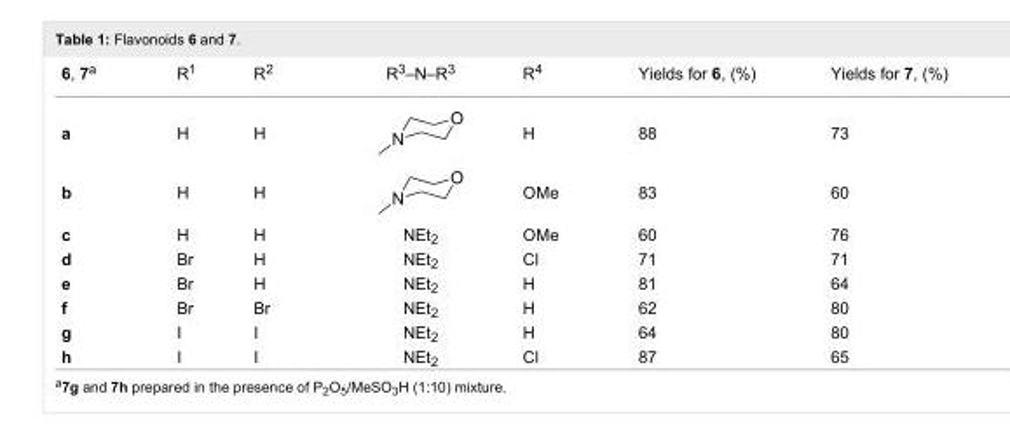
<table><tbody><tr><td>6, 7<sup>a</sup></td><td>R<sup>1</sup></td><td>R<sup>2</sup></td><td>R<sup>3</sup>–N–R<sup>3</sup></td><td>R<sup>4</sup></td><td>Yields for 6, (%)</td><td>Yields for 7, (%)</td></tr><tr><td>a</td><td>H</td><td>H</td><td></td><td>H</td><td>88</td><td>73</td></tr><tr><td>b</td><td>H</td><td>H</td><td></td><td>OMe</td><td>83</td><td>60</td></tr><tr><td>c</td><td>H</td><td>H</td><td>NEt<sub>2</sub></td><td>OMe</td><td>60</td><td>76</td></tr><tr><td>d</td><td>Br</td><td>H</td><td>NEt<sub>2</sub></td><td>Cl</td><td>71</td><td>71</td></tr><tr><td>e</td><td>Br</td><td>H</td><td>NEt<sub>2</sub></td><td>H</td><td>81</td><td>64</td></tr><tr><td>f</td><td>Br</td><td>Br</td><td>NEt<sub>2</sub></td><td>H</td><td>62</td><td>80</td></tr><tr><td>g</td><td>I</td><td>I</td><td>NEt<sub>2</sub></td><td>H</td><td>64</td><td>80</td></tr><tr><td>h</td><td>I</td><td>I</td><td>NEt<sub>2</sub></td><td>Cl</td><td>87</td><td>65</td></tr></tbody></table>